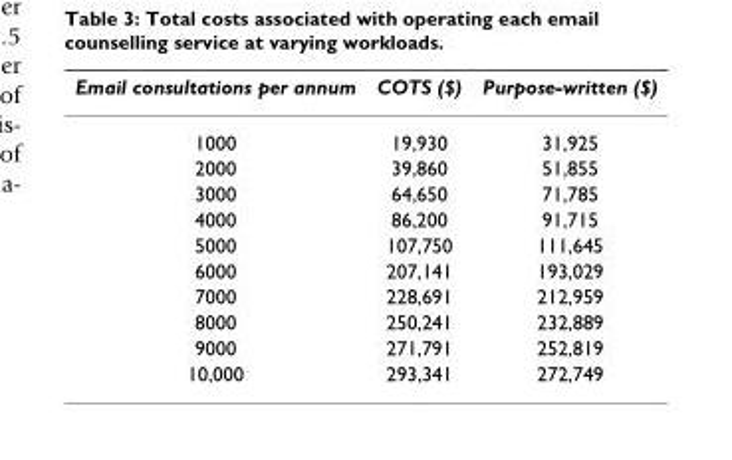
<table><thead><tr><td>Email consultations per annum</td><td>COTS ($)</td><td>Purpose-written ($)</td></tr></thead><tbody><tr><td>1000</td><td>19,930</td><td>31,925</td></tr><tr><td>2000</td><td>39,860</td><td>51,855</td></tr><tr><td>3000</td><td>64,650</td><td>71,785</td></tr><tr><td>4000</td><td>86,200</td><td>91,715</td></tr><tr><td>5000</td><td>107,750</td><td>111,645</td></tr><tr><td>6000</td><td>207,141</td><td>193,029</td></tr><tr><td>7000</td><td>228,691</td><td>212,959</td></tr><tr><td>8000</td><td>250,241</td><td>232,889</td></tr><tr><td>9000</td><td>271,791</td><td>252,819</td></tr><tr><td>10,000</td><td>293,341</td><td>272,749</td></tr></tbody></table>